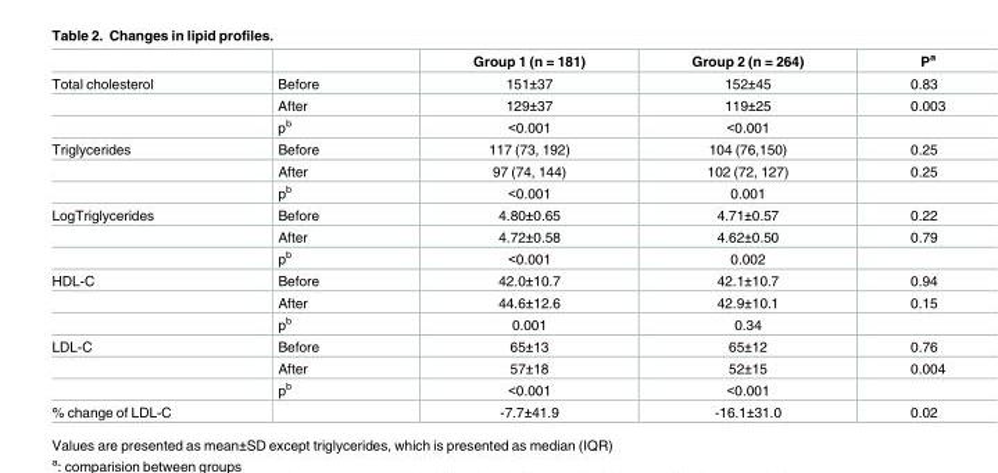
<table><thead><tr><td></td><td></td><td>Group 1 (n = 181)</td><td>Group 2 (n = 264)</td><td>P<sup>a</sup></td></tr></thead><tbody><tr><td rowspan="3">Total cholesterol</td><td>Before</td><td>151±37</td><td>152±45</td><td>0.83</td></tr><tr><td>After</td><td>129±37</td><td>119±25</td><td>0.003</td></tr><tr><td>p<sup>b</sup></td><td>&lt;0.001</td><td>&lt;0.001</td><td></td></tr><tr><td rowspan="3">Triglycerides</td><td>Before</td><td>117 (73, 192)</td><td>104 (76,150)</td><td>0.25</td></tr><tr><td>After</td><td>97 (74, 144)</td><td>102 (72, 127)</td><td>0.25</td></tr><tr><td>p<sup>b</sup></td><td>&lt;0.001</td><td>0.001</td><td></td></tr><tr><td rowspan="3">LogTriglycerides</td><td>Before</td><td>4.80±0.65</td><td>4.71±0.57</td><td>0.22</td></tr><tr><td>After</td><td>4.72±0.58</td><td>4.62±0.50</td><td>0.79</td></tr><tr><td>p<sup>b</sup></td><td>&lt;0.001</td><td>0.002</td><td></td></tr><tr><td rowspan="3">HDL-C</td><td>Before</td><td>42.0±10.7</td><td>42.1±10.7</td><td>0.94</td></tr><tr><td>After</td><td>44.6±12.6</td><td>42.9±10.1</td><td>0.15</td></tr><tr><td>p<sup>b</sup></td><td>0.001</td><td>0.34</td><td></td></tr><tr><td rowspan="3">LDL-C</td><td>Before</td><td>65±13</td><td>65±12</td><td>0.76</td></tr><tr><td>After</td><td>57±18</td><td>52±15</td><td>0.004</td></tr><tr><td>p<sup>b</sup></td><td>&lt;0.001</td><td>&lt;0.001</td><td></td></tr><tr><td>% change of LDL-C</td><td></td><td>-7.7±41.9</td><td>-16.1±31.0</td><td>0.02</td></tr></tbody></table>